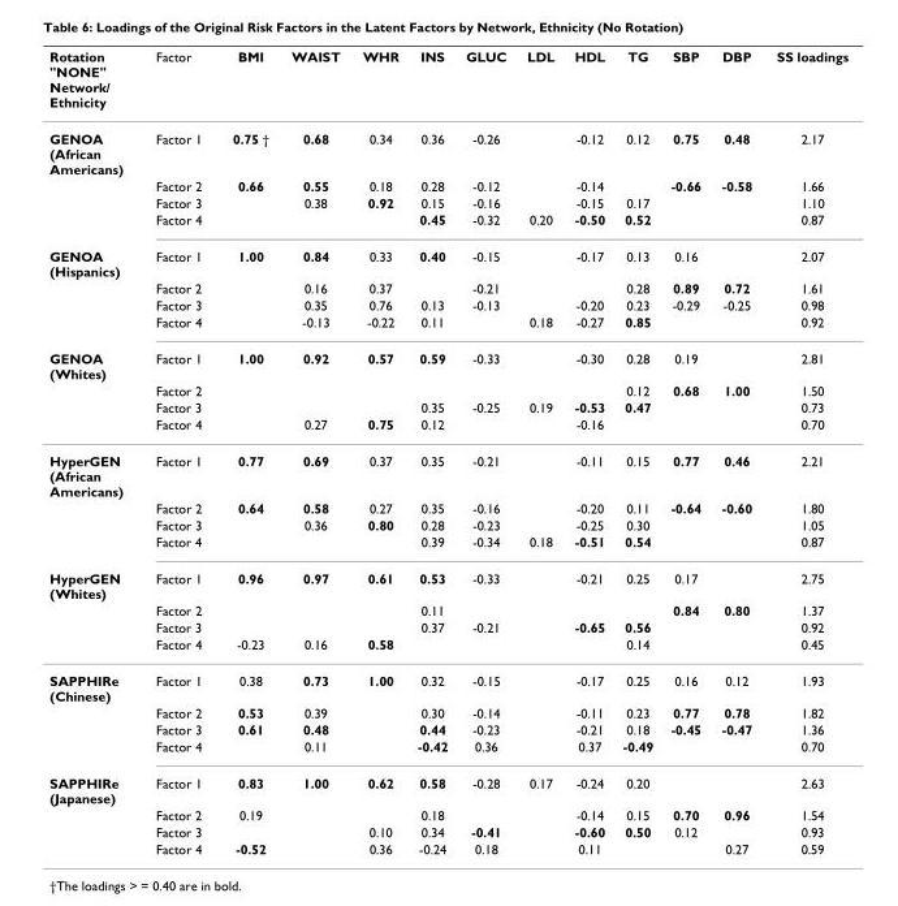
<table><thead><tr><td>Rotation &quot;NONE&quot; Network/ Ethnicity</td><td>Factor</td><td>BMI</td><td>WAIST</td><td>WHR</td><td>INS</td><td>GLUC</td><td>LDL</td><td>HDL</td><td>TG</td><td>SBP</td><td>DBP</td><td>SS loadings</td></tr></thead><tbody><tr><td rowspan="4">GENOA (African Americans)</td><td>Factor 1</td><td>0.75 †</td><td>0.68</td><td>0.34</td><td>0.36</td><td>-0.26</td><td></td><td>-0.12</td><td>0.12</td><td>0.75</td><td>0.48</td><td>2.17</td></tr><tr><td>Factor 2</td><td>0.66</td><td>0.55</td><td>0.18</td><td>0.28</td><td>-0.12</td><td></td><td>-0.14</td><td></td><td>-0.66</td><td>-0.58</td><td>1.66</td></tr><tr><td>Factor 3</td><td></td><td>0.38</td><td>0.92</td><td>0.15</td><td>-0.16</td><td></td><td>-0.15</td><td>0.17</td><td></td><td></td><td>1.10</td></tr><tr><td>Factor 4</td><td></td><td></td><td></td><td>0.45</td><td>-0.32</td><td>0.20</td><td>-0.50</td><td>0.52</td><td></td><td></td><td>0.87</td></tr><tr><td rowspan="4">GENOA (Hispanics)</td><td>Factor 1</td><td>1.00</td><td>0.84</td><td>0.33</td><td>0.40</td><td>-0.15</td><td></td><td>-0.17</td><td>0.13</td><td>0.16</td><td></td><td>2.07</td></tr><tr><td>Factor 2</td><td></td><td>0.16</td><td>0.37</td><td></td><td>-0.21</td><td></td><td></td><td>0.28</td><td>0.89</td><td>0.72</td><td>1.61</td></tr><tr><td>Factor 3</td><td></td><td>0.35</td><td>0.76</td><td>0.13</td><td>-0.13</td><td></td><td>-0.20</td><td>0.23</td><td>-0.29</td><td>-0.25</td><td>0.98</td></tr><tr><td>Factor 4</td><td></td><td>-0.13</td><td>-0.22</td><td>0.11</td><td></td><td>0.18</td><td>-0.27</td><td>0.85</td><td></td><td></td><td>0.92</td></tr><tr><td rowspan="4">GENOA (Whites)</td><td>Factor 1</td><td>1.00</td><td>0.92</td><td>0.57</td><td>0.59</td><td>-0.33</td><td></td><td>-0.30</td><td>0.28</td><td>0.19</td><td></td><td>2.81</td></tr><tr><td>Factor 2</td><td></td><td></td><td></td><td></td><td></td><td></td><td></td><td>0.12</td><td>0.68</td><td>1.00</td><td>1.50</td></tr><tr><td>Factor 3</td><td></td><td></td><td></td><td>0.35</td><td>-0.25</td><td>0.19</td><td>-0.53</td><td>0.47</td><td></td><td></td><td>0.73</td></tr><tr><td>Factor 4</td><td></td><td>0.27</td><td>0.75</td><td>0.12</td><td></td><td></td><td>-0.16</td><td></td><td></td><td></td><td>0.70</td></tr><tr><td rowspan="4">HyperGEN (African Americans)</td><td>Factor 1</td><td>0.77</td><td>0.69</td><td>0.37</td><td>0.35</td><td>-0.21</td><td></td><td>-0.11</td><td>0.15</td><td>0.77</td><td>0.46</td><td>2.21</td></tr><tr><td>Factor 2</td><td>0.64</td><td>0.58</td><td>0.27</td><td>0.35</td><td>-0.16</td><td></td><td>-0.20</td><td>0.11</td><td>-0.64</td><td>-0.60</td><td>1.80</td></tr><tr><td>Factor 3</td><td></td><td>0.36</td><td>0.80</td><td>0.28</td><td>-0.23</td><td></td><td>-0.25</td><td>0.30</td><td></td><td></td><td>1.05</td></tr><tr><td>Factor 4</td><td></td><td></td><td></td><td>0.39</td><td>-0.34</td><td>0.18</td><td>-0.51</td><td>0.54</td><td></td><td></td><td>0.87</td></tr><tr><td rowspan="4">HyperGEN (Whites)</td><td>Factor 1</td><td>0.96</td><td>0.97</td><td>0.61</td><td>0.53</td><td>-0.33</td><td></td><td>-0.21</td><td>0.25</td><td>0.17</td><td></td><td>2.75</td></tr><tr><td>Factor 2</td><td></td><td></td><td></td><td>0.11</td><td></td><td></td><td></td><td></td><td>0.84</td><td>0.80</td><td>1.37</td></tr><tr><td>Factor 3</td><td></td><td></td><td></td><td>0.37</td><td>-0.21</td><td></td><td>-0.65</td><td>0.56</td><td></td><td></td><td>0.92</td></tr><tr><td>Factor 4</td><td>-0.23</td><td>0.16</td><td>0.58</td><td></td><td></td><td></td><td></td><td>0.14</td><td></td><td></td><td>0.45</td></tr><tr><td rowspan="4">SAPPHIRe (Chinese)</td><td>Factor 1</td><td>0.38</td><td>0.73</td><td>1.00</td><td>0.32</td><td>-0.15</td><td></td><td>-0.17</td><td>0.25</td><td>0.16</td><td>0.12</td><td>1.93</td></tr><tr><td>Factor 2</td><td>0.53</td><td>0.39</td><td></td><td>0.30</td><td>-0.14</td><td></td><td>-0.11</td><td>0.23</td><td>0.77</td><td>0.78</td><td>1.82</td></tr><tr><td>Factor 3</td><td>0.61</td><td>0.48</td><td></td><td>0.44</td><td>-0.23</td><td></td><td>-0.21</td><td>0.18</td><td>-0.45</td><td>-0.47</td><td>1.36</td></tr><tr><td>Factor 4</td><td></td><td>0.11</td><td></td><td>-0.42</td><td>0.36</td><td></td><td>0.37</td><td>-0.49</td><td></td><td></td><td>0.70</td></tr><tr><td rowspan="4">SAPPHIRe (Japanese)</td><td>Factor 1</td><td>0.83</td><td>1.00</td><td>0.62</td><td>0.58</td><td>-0.28</td><td>0.17</td><td>-0.24</td><td>0.20</td><td></td><td></td><td>2.63</td></tr><tr><td>Factor 2</td><td>0.19</td><td></td><td></td><td>0.18</td><td></td><td></td><td>-0.14</td><td>0.15</td><td>0.70</td><td>0.96</td><td>1.54</td></tr><tr><td>Factor 3</td><td></td><td></td><td>0.10</td><td>0.34</td><td>-0.41</td><td></td><td>-0.60</td><td>0.50</td><td>0.12</td><td></td><td>0.93</td></tr><tr><td>Factor 4</td><td>-0.52</td><td></td><td>0.36</td><td>-0.24</td><td>0.18</td><td></td><td>0.11</td><td></td><td></td><td>0.27</td><td>0.59</td></tr></tbody></table>